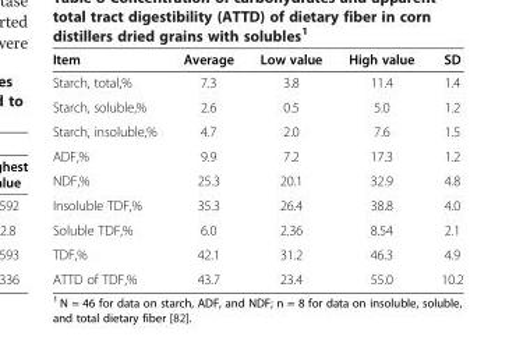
<table><thead><tr><td>Item</td><td>Average</td><td>Low value</td><td>High value</td><td>SD</td></tr></thead><tbody><tr><td>Starch, total,%</td><td>7.3</td><td>3.8</td><td>11.4</td><td>1.4</td></tr><tr><td>Starch, soluble,%</td><td>2.6</td><td>0.5</td><td>5.0</td><td>1.2</td></tr><tr><td>Starch, insoluble,%</td><td>4.7</td><td>2.0</td><td>7.6</td><td>1.5</td></tr><tr><td>ADF,%</td><td>9.9</td><td>7.2</td><td>17.3</td><td>1.2</td></tr><tr><td>NDF,%</td><td>25.3</td><td>20.1</td><td>32.9</td><td>4.8</td></tr><tr><td>Insoluble TDF,%</td><td>35.3</td><td>26.4</td><td>38.8</td><td>4.0</td></tr><tr><td>Soluble TDF,%</td><td>6.0</td><td>2.36</td><td>8.54</td><td>2.1</td></tr><tr><td>TDF,%</td><td>42.1</td><td>31.2</td><td>46.3</td><td>4.9</td></tr><tr><td>ATTD of TDF,%</td><td>43.7</td><td>23.4</td><td>55.0</td><td>10.2</td></tr></tbody></table>